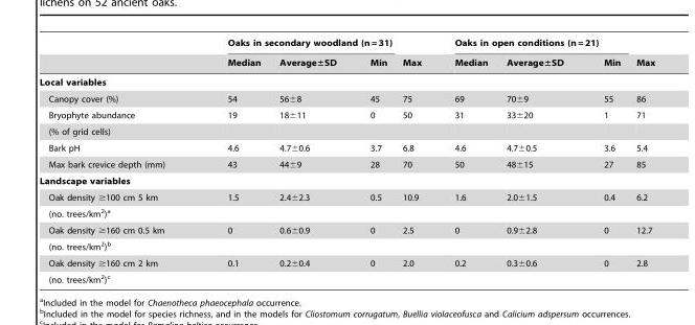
<table><thead><tr><td rowspan="2"></td><td colspan="3">Oaks in secondary woodland (n = 31)</td><td rowspan="2">Max</td><td colspan="3">Oaks in open conditions (n = 21)</td><td rowspan="2">Max</td></tr><tr><td>Median</td><td>Average±SD</td><td>Min</td><td>Median</td><td>Average±SD</td><td>Min</td></tr></thead><tbody><tr><td colspan="9">Local variables</td></tr><tr><td>Canopy cover (%)</td><td>54</td><td>56±8</td><td>45</td><td>75</td><td>69</td><td>70±9</td><td>55</td><td>86</td></tr><tr><td>Bryophyte abundance</td><td>19</td><td>18±11</td><td>0</td><td>50</td><td>31</td><td>33±20</td><td>1</td><td>71</td></tr><tr><td colspan="9">(% of grid cells)</td></tr><tr><td>Bark pH</td><td>4.6</td><td>4.7±0.6</td><td>3.7</td><td>6.8</td><td>4.6</td><td>4.7±0.5</td><td>3.6</td><td>5.4</td></tr><tr><td>Max bark crevice depth (mm)</td><td>43</td><td>44±9</td><td>28</td><td>70</td><td>50</td><td>48±15</td><td>27</td><td>85</td></tr><tr><td colspan="9">Landscape variables</td></tr><tr><td>Oak density ≥100 cm 5 km</td><td>1.5</td><td>2.4±2.3</td><td>0.5</td><td>10.9</td><td>1.6</td><td>2.0±1.5</td><td>0.4</td><td>6.2</td></tr><tr><td colspan="9">(no. trees/km<sup>2</sup>)<sup>a</sup></td></tr><tr><td>Oak density ≥160 cm 0.5 km</td><td>0</td><td>0.6±0.9</td><td>0</td><td>2.5</td><td>0</td><td>0.9±2.8</td><td>0</td><td>12.7</td></tr><tr><td colspan="9">(no. trees/km<sup>2</sup>)<sup>b</sup></td></tr><tr><td>Oak density ≥160 cm 2 km</td><td>0.1</td><td>0.2±0.4</td><td>0</td><td>2.0</td><td>0.2</td><td>0.3±0.6</td><td>0</td><td>2.8</td></tr><tr><td>(no. trees/km<sup>2</sup>)<sup>c</sup></td><td></td><td></td><td></td><td></td><td></td><td></td><td></td><td></td></tr></tbody></table>